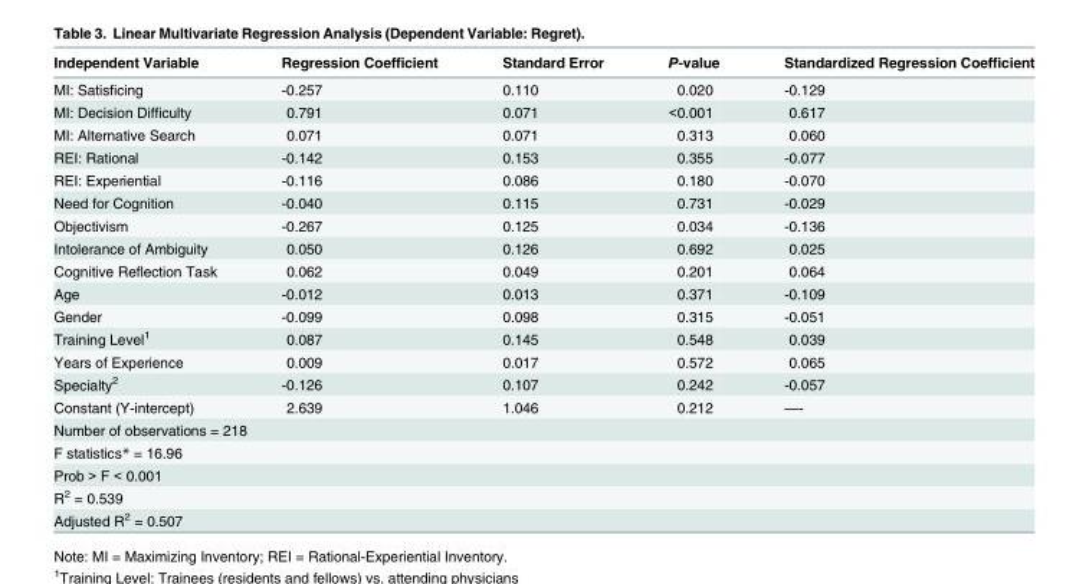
<table><thead><tr><td>Independent Variable</td><td>Regression Coefficient</td><td>Standard Error</td><td>P-value</td><td>Standardized Regression Coefficient</td></tr></thead><tbody><tr><td>MI: Satisficing</td><td>-0.257</td><td>0.110</td><td>0.020</td><td>-0.129</td></tr><tr><td>MI: Decision Difficulty</td><td>0.791</td><td>0.071</td><td>&lt;0.001</td><td>0.617</td></tr><tr><td>MI: Alternative Search</td><td>0.071</td><td>0.071</td><td>0.313</td><td>0.060</td></tr><tr><td>REI: Rational</td><td>-0.142</td><td>0.153</td><td>0.355</td><td>-0.077</td></tr><tr><td>REI: Experiential</td><td>-0.116</td><td>0.086</td><td>0.180</td><td>-0.070</td></tr><tr><td>Need for Cognition</td><td>-0.040</td><td>0.115</td><td>0.731</td><td>-0.029</td></tr><tr><td>Objectivism</td><td>-0.267</td><td>0.125</td><td>0.034</td><td>-0.136</td></tr><tr><td>Intolerance of Ambiguity</td><td>0.050</td><td>0.126</td><td>0.692</td><td>0.025</td></tr><tr><td>Cognitive Reflection Task</td><td>0.062</td><td>0.049</td><td>0.201</td><td>0.064</td></tr><tr><td>Age</td><td>-0.012</td><td>0.013</td><td>0.371</td><td>-0.109</td></tr><tr><td>Gender</td><td>-0.099</td><td>0.098</td><td>0.315</td><td>-0.051</td></tr><tr><td>Training Level<sup>1</sup></td><td>0.087</td><td>0.145</td><td>0.548</td><td>0.039</td></tr><tr><td>Years of Experience</td><td>0.009</td><td>0.017</td><td>0.572</td><td>0.065</td></tr><tr><td>Specialty<sup>2</sup></td><td>-0.126</td><td>0.107</td><td>0.242</td><td>-0.057</td></tr><tr><td>Constant (Y-intercept)</td><td>2.639</td><td>1.046</td><td>0.212</td><td>—-</td></tr><tr><td colspan="5">Number of observations = 218</td></tr><tr><td colspan="5">F statistics* = 16.96</td></tr><tr><td colspan="5">Prob &gt; F &lt; 0.001</td></tr><tr><td colspan="5">R<sup>2</sup> = 0.539</td></tr><tr><td colspan="5">Adjusted R<sup>2</sup> = 0.507</td></tr></tbody></table>